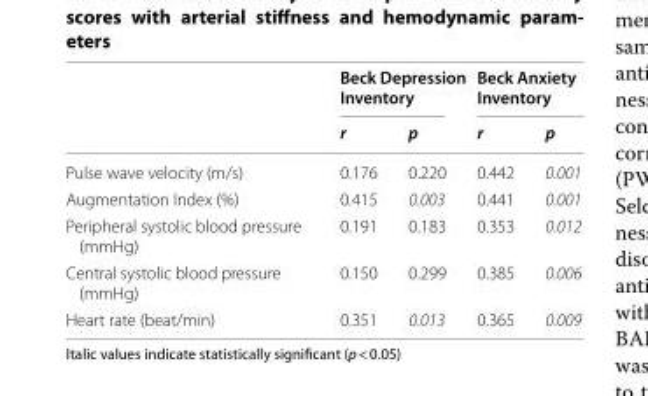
<table><thead><tr><td rowspan="2"></td><td colspan="2">Beck Depression Inventory</td><td colspan="2">Beck Anxiety Inventory</td></tr><tr><td>r</td><td>p</td><td>r</td><td>p</td></tr></thead><tbody><tr><td>Pulse wave velocity (m/s)</td><td>0.176</td><td>0.220</td><td>0.442</td><td>0.001</td></tr><tr><td>Augmentation Index (%)</td><td>0.415</td><td>0.003</td><td>0.441</td><td>0.001</td></tr><tr><td>Peripheral systolic blood pressure (mmHg)</td><td>0.191</td><td>0.183</td><td>0.353</td><td>0.012</td></tr><tr><td>Central systolic blood pressure (mmHg)</td><td>0.150</td><td>0.299</td><td>0.385</td><td>0.006</td></tr><tr><td>Heart rate (beat/min)</td><td>0.351</td><td>0.013</td><td>0.365</td><td>0.009</td></tr></tbody></table>